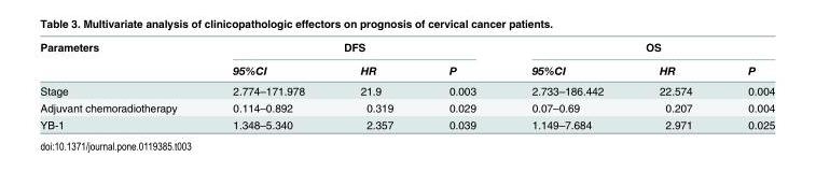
<table><thead><tr><td rowspan="2">Parameters</td><td colspan="3">DFS</td><td colspan="3">OS</td></tr><tr><td>95%CI</td><td>HR</td><td>P</td><td>95%CI</td><td>HR</td><td>P</td></tr></thead><tbody><tr><td>Stage</td><td>2.774–171.978</td><td>21.9</td><td>0.003</td><td>2.733–186.442</td><td>22.574</td><td>0.004</td></tr><tr><td>Adjuvant chemoradiotherapy</td><td>0.114–0.892</td><td>0.319</td><td>0.029</td><td>0.07–0.69</td><td>0.207</td><td>0.004</td></tr><tr><td>YB-1</td><td>1.348–5.340</td><td>2.357</td><td>0.039</td><td>1.149–7.684</td><td>2.971</td><td>0.025</td></tr></tbody></table>